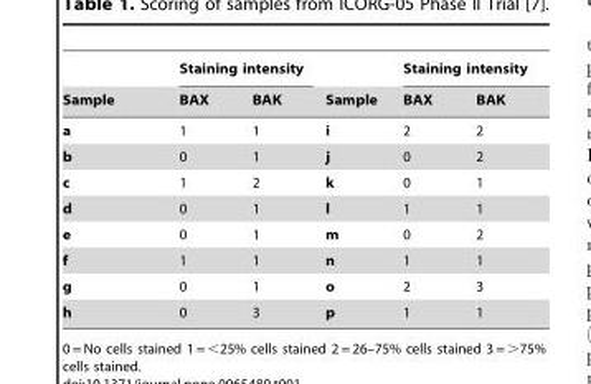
<table><thead><tr><td rowspan="2">Sample</td><td colspan="2">Staining intensity</td><td rowspan="2">Sample</td><td colspan="2">Staining intensity</td></tr><tr><td>BAX</td><td>BAK</td><td>BAX</td><td>BAK</td></tr></thead><tbody><tr><td>a</td><td>1</td><td>1</td><td>i</td><td>2</td><td>2</td></tr><tr><td>b</td><td>0</td><td>1</td><td>j</td><td>0</td><td>2</td></tr><tr><td>c</td><td>1</td><td>2</td><td>k</td><td>0</td><td>1</td></tr><tr><td>d</td><td>0</td><td>1</td><td>l</td><td>1</td><td>1</td></tr><tr><td>e</td><td>0</td><td>1</td><td>m</td><td>0</td><td>2</td></tr><tr><td>f</td><td>1</td><td>1</td><td>n</td><td>1</td><td>1</td></tr><tr><td>g</td><td>0</td><td>1</td><td>o</td><td>2</td><td>3</td></tr><tr><td>h</td><td>0</td><td>3</td><td>p</td><td>1</td><td>1</td></tr></tbody></table>